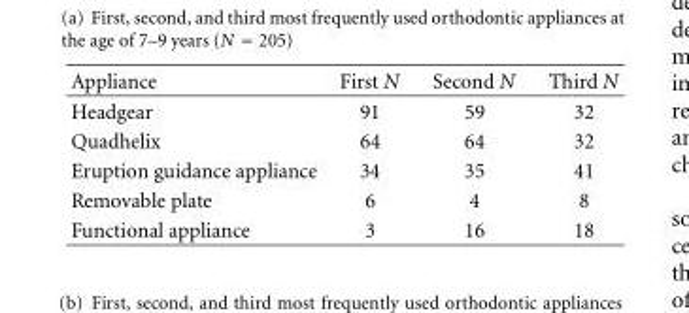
<table><thead><tr><td>Appliance</td><td>First N</td><td>Second N</td><td>Third N</td></tr></thead><tbody><tr><td>Headgear</td><td>91</td><td>59</td><td>32</td></tr><tr><td>Quadhelix</td><td>64</td><td>64</td><td>32</td></tr><tr><td>Eruption guidance appliance</td><td>34</td><td>35</td><td>41</td></tr><tr><td>Removable plate</td><td>6</td><td>4</td><td>8</td></tr><tr><td>Functional appliance</td><td>3</td><td>16</td><td>18</td></tr></tbody></table>